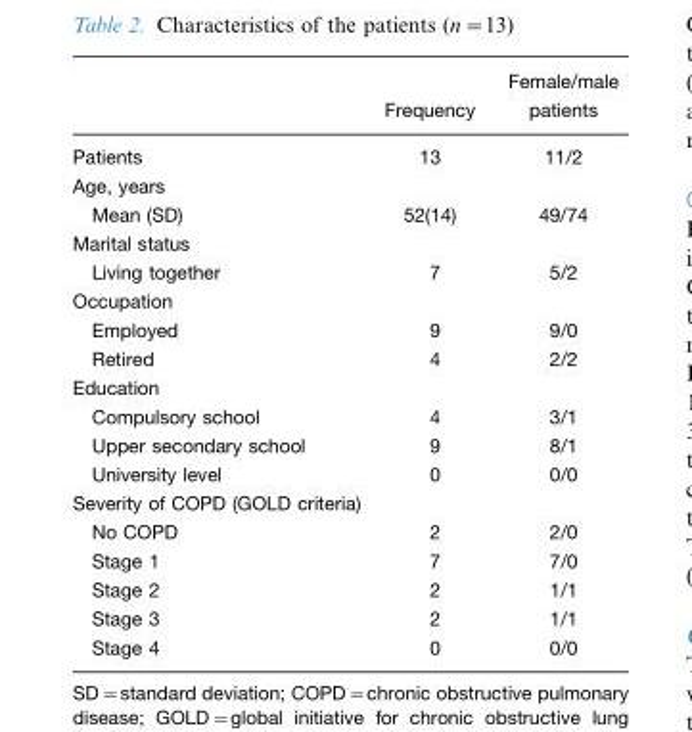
<table><thead><tr><td></td><td>Frequency</td><td>Female/male patients</td></tr></thead><tbody><tr><td>Patients</td><td>13</td><td>11/2</td></tr><tr><td colspan="3">Age, years</td></tr><tr><td>Mean (SD)</td><td>52(14)</td><td>49/74</td></tr><tr><td colspan="3">Marital status</td></tr><tr><td>Living together</td><td>7</td><td>5/2</td></tr><tr><td colspan="3">Occupation</td></tr><tr><td>Employed</td><td>9</td><td>9/0</td></tr><tr><td>Retired</td><td>4</td><td>2/2</td></tr><tr><td colspan="3">Education</td></tr><tr><td>Compulsory school</td><td>4</td><td>3/1</td></tr><tr><td>Upper secondary school</td><td>9</td><td>8/1</td></tr><tr><td>University level</td><td>0</td><td>0/0</td></tr><tr><td colspan="3">Severity of COPD (GOLD criteria)</td></tr><tr><td>No COPD</td><td>2</td><td>2/0</td></tr><tr><td>Stage 1</td><td>7</td><td>7/0</td></tr><tr><td>Stage 2</td><td>2</td><td>1/1</td></tr><tr><td>Stage 3</td><td>2</td><td>1/1</td></tr><tr><td>Stage 4</td><td>0</td><td>0/0</td></tr></tbody></table>